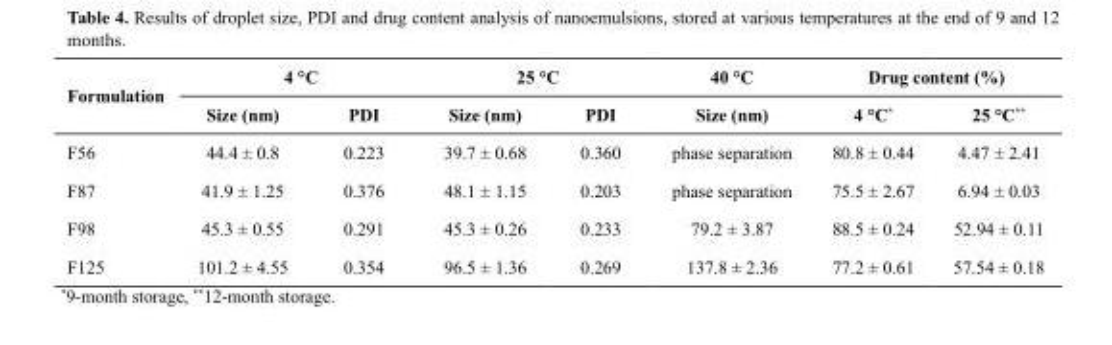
<table><thead><tr><td rowspan="2">Formulation</td><td colspan="2">4 °C</td><td colspan="2">25 °C</td><td rowspan="2">40 °C Size (nm)</td><td colspan="2">Drug content (%)</td></tr><tr><td>Size (nm)</td><td>PDI</td><td>Size (nm)</td><td>PDI</td><td>4 °C*</td><td>25 °C**</td></tr></thead><tbody><tr><td>F56</td><td>44.4 ± 0.8</td><td>0.223</td><td>39.7 ± 0.68</td><td>0.360</td><td>phase separation</td><td>80.8 ± 0.44</td><td>4.47 ± 2.41</td></tr><tr><td>F87</td><td>41.9 ± 1.25</td><td>0.376</td><td>48.1 ± 1.15</td><td>0.203</td><td>phase separation</td><td>75.5 ± 2.67</td><td>6.94 ± 0.03</td></tr><tr><td>F98</td><td>45.3 ± 0.55</td><td>0.291</td><td>45.3 ± 0.26</td><td>0.233</td><td>79.2 ± 3.87</td><td>88.5 ± 0.24</td><td>52.94 ± 0.11</td></tr><tr><td>F125</td><td>101.2 ± 4.55</td><td>0.354</td><td>96.5 ± 1.36</td><td>0.269</td><td>137.8 ± 2.36</td><td>77.2 ± 0.61</td><td>57.54 ± 0.18</td></tr></tbody></table>